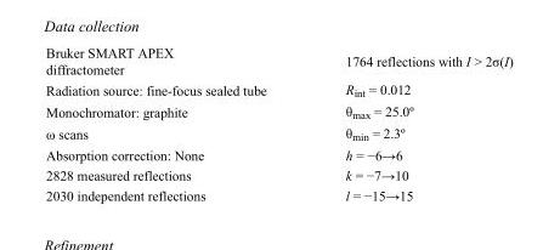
<table><tbody><tr><td>Bruker SMART APEX diffractometer</td><td>1764 reflections with I &gt; 2σ(I)</td></tr><tr><td>Radiation source: fine-focus sealed tube</td><td>R<sub>int</sub> = 0.012</td></tr><tr><td>Monochromator: graphite</td><td>θ<sub>max</sub> = 25.0º</td></tr><tr><td>ω scans</td><td>θ<sub>min</sub> = 2.3º</td></tr><tr><td>Absorption correction: None</td><td>h = −6→6</td></tr><tr><td>2828 measured reflections</td><td>k = −7→10</td></tr><tr><td>2030 independent reflections</td><td>l = −15→15</td></tr></tbody></table>